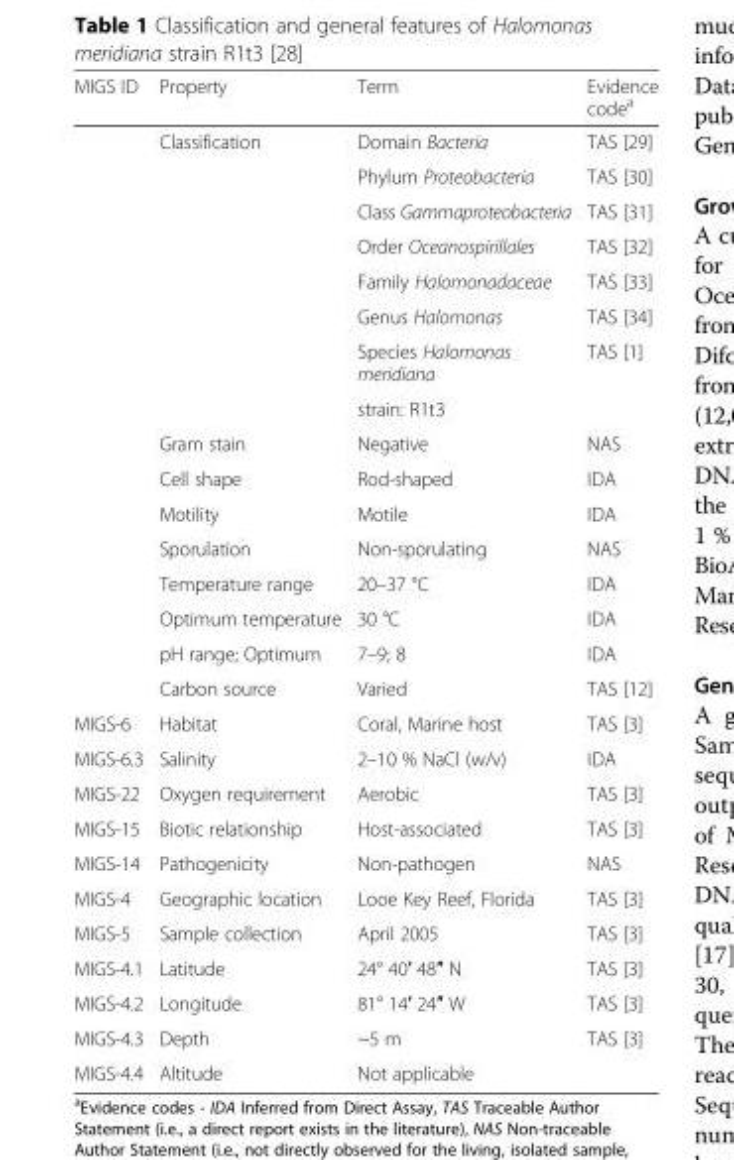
<table><thead><tr><td>MIGS ID</td><td>Property</td><td>Term</td><td>Evidence code<sup>a</sup></td></tr></thead><tbody><tr><td></td><td>Classification</td><td>Domain Bacteria</td><td>TAS [29]</td></tr><tr><td></td><td></td><td>Phylum Proteobacteria</td><td>TAS [30]</td></tr><tr><td></td><td></td><td>Class Gammaproteobacteria</td><td>TAS [31]</td></tr><tr><td></td><td></td><td>Order Oceanospirillales</td><td>TAS [32]</td></tr><tr><td></td><td></td><td>Family Halomonadaceae</td><td>TAS [33]</td></tr><tr><td></td><td></td><td>Genus Halomonas</td><td>TAS [34]</td></tr><tr><td></td><td></td><td>Species Halomonas meridiana</td><td>TAS [1]</td></tr><tr><td></td><td></td><td>strain: R1t3</td><td></td></tr><tr><td></td><td>Gram stain</td><td>Negative</td><td>NAS</td></tr><tr><td></td><td>Cell shape</td><td>Rod-shaped</td><td>IDA</td></tr><tr><td></td><td>Motility</td><td>Motile</td><td>IDA</td></tr><tr><td></td><td>Sporulation</td><td>Non-sporulating</td><td>NAS</td></tr><tr><td></td><td>Temperature range</td><td>20–37 °C</td><td>IDA</td></tr><tr><td></td><td>Optimum temperature</td><td>30 °C</td><td>IDA</td></tr><tr><td></td><td>pH range; Optimum</td><td>7–9; 8</td><td>IDA</td></tr><tr><td></td><td>Carbon source</td><td>Varied</td><td>TAS [12]</td></tr><tr><td>MIGS-6</td><td>Habitat</td><td>Coral, Marine host</td><td>TAS [3]</td></tr><tr><td>MIGS-6.3</td><td>Salinity</td><td>2–10 % NaCl (w/v)</td><td>IDA</td></tr><tr><td>MIGS-22</td><td>Oxygen requirement</td><td>Aerobic</td><td>TAS [3]</td></tr><tr><td>MIGS-15</td><td>Biotic relationship</td><td>Host-associated</td><td>TAS [3]</td></tr><tr><td>MIGS-14</td><td>Pathogenicity</td><td>Non-pathogen</td><td>NAS</td></tr><tr><td>MIGS-4</td><td>Geographic location</td><td>Looe Key Reef, Florida</td><td>TAS [3]</td></tr><tr><td>MIGS-5</td><td>Sample collection</td><td>April 2005</td><td>TAS [3]</td></tr><tr><td>MIGS-4.1</td><td>Latitude</td><td>24° 40′ 48″ N</td><td>TAS [3]</td></tr><tr><td>MIGS-4.2</td><td>Longitude</td><td>81° 14′ 24″ W</td><td>TAS [3]</td></tr><tr><td>MIGS-4.3</td><td>Depth</td><td>~5 m</td><td>TAS [3]</td></tr><tr><td>MIGS-4.4</td><td>Altitude</td><td>Not applicable</td><td></td></tr></tbody></table>